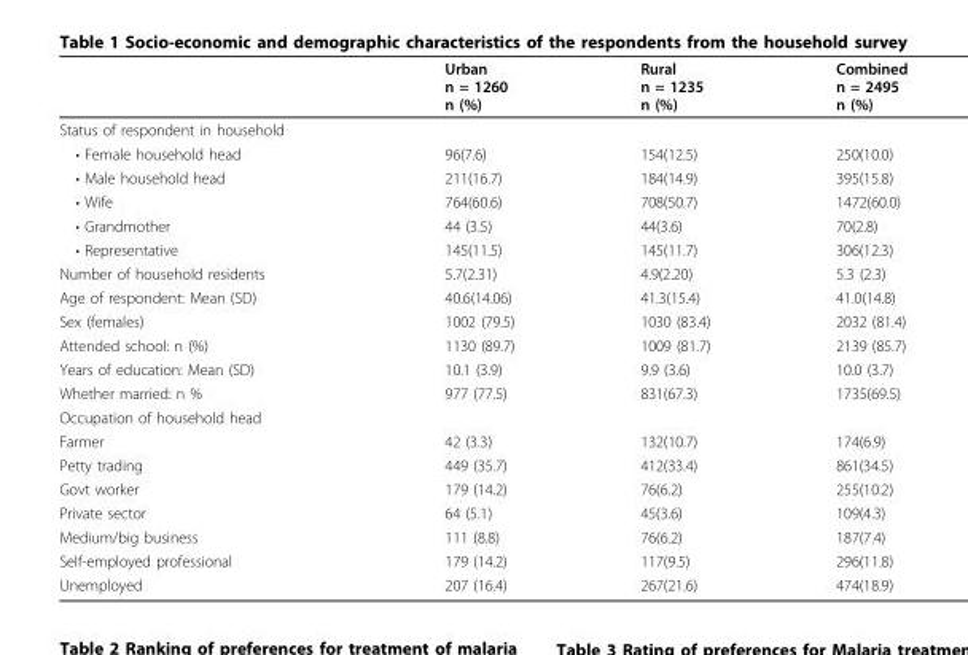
<table><thead><tr><td></td><td>Urban n = 1260 n (%)</td><td>Rural n = 1235 n (%)</td><td>Combined n = 2495 n (%)</td></tr></thead><tbody><tr><td colspan="4">Status of respondent in household</td></tr><tr><td>• Female household head</td><td>96(7.6)</td><td>154(12.5)</td><td>250(10.0)</td></tr><tr><td>• Male household head</td><td>211(16.7)</td><td>184(14.9)</td><td>395(15.8)</td></tr><tr><td>• Wife</td><td>764(60.6)</td><td>708(50.7)</td><td>1472(60.0)</td></tr><tr><td>• Grandmother</td><td>44 (3.5)</td><td>44(3.6)</td><td>70(2.8)</td></tr><tr><td>• Representative</td><td>145(11.5)</td><td>145(11.7)</td><td>306(12.3)</td></tr><tr><td>Number of household residents</td><td>5.7(2.31)</td><td>4.9(2.20)</td><td>5.3 (2.3)</td></tr><tr><td>Age of respondent: Mean (SD)</td><td>40.6(14.06)</td><td>41.3(15.4)</td><td>41.0(14.8)</td></tr><tr><td>Sex (females)</td><td>1002 (79.5)</td><td>1030 (83.4)</td><td>2032 (81.4)</td></tr><tr><td>Attended school: n (%)</td><td>1130 (89.7)</td><td>1009 (81.7)</td><td>2139 (85.7)</td></tr><tr><td>Years of education: Mean (SD)</td><td>10.1 (3.9)</td><td>9.9 (3.6)</td><td>10.0 (3.7)</td></tr><tr><td>Whether married: n %</td><td>977 (77.5)</td><td>831(67.3)</td><td>1735(69.5)</td></tr><tr><td colspan="4">Occupation of household head</td></tr><tr><td>Farmer</td><td>42 (3.3)</td><td>132(10.7)</td><td>174(6.9)</td></tr><tr><td>Petty trading</td><td>449 (35.7)</td><td>412(33.4)</td><td>861(34.5)</td></tr><tr><td>Govt worker</td><td>179 (14.2)</td><td>76(6.2)</td><td>255(10.2)</td></tr><tr><td>Private sector</td><td>64 (5.1)</td><td>45(3.6)</td><td>109(4.3)</td></tr><tr><td>Medium/big business</td><td>111 (8.8)</td><td>76(6.2)</td><td>187(7.4)</td></tr><tr><td>Self-employed professional</td><td>179 (14.2)</td><td>117(9.5)</td><td>296(11.8)</td></tr><tr><td>Unemployed</td><td>207 (16.4)</td><td>267(21.6)</td><td>474(18.9)</td></tr></tbody></table>